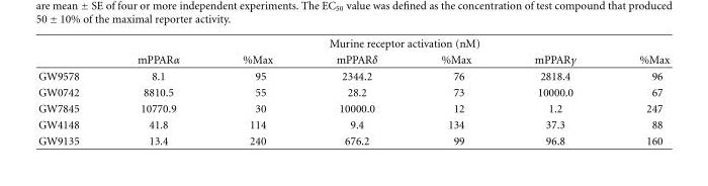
<table><thead><tr><td rowspan="2"></td><td colspan="6">Murine receptor activation (nM)</td></tr><tr><td>mPPARα</td><td>%Max</td><td>mPPARδ</td><td>%Max</td><td>mPPARγ</td><td>%Max</td></tr></thead><tbody><tr><td>GW9578</td><td>8.1</td><td>95</td><td>2344.2</td><td>76</td><td>2818.4</td><td>96</td></tr><tr><td>GW0742</td><td>8810.5</td><td>55</td><td>28.2</td><td>73</td><td>10000.0</td><td>67</td></tr><tr><td>GW7845</td><td>10770.9</td><td>30</td><td>10000.0</td><td>12</td><td>1.2</td><td>247</td></tr><tr><td>GW4148</td><td>41.8</td><td>114</td><td>9.4</td><td>134</td><td>37.3</td><td>88</td></tr><tr><td>GW9135</td><td>13.4</td><td>240</td><td>676.2</td><td>99</td><td>96.8</td><td>160</td></tr></tbody></table>